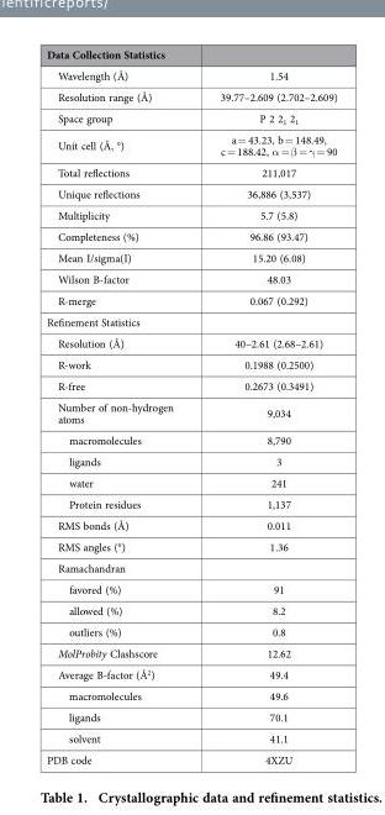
<table><thead><tr><td>Data Collection Statistics</td><td></td></tr></thead><tbody><tr><td>Wavelength (Å)</td><td>1.54</td></tr><tr><td>Resolution range (Å)</td><td>39.77–2.609 (2.702–2.609)</td></tr><tr><td>Space group</td><td>P 2 2<sub>1</sub> 2<sub>1</sub></td></tr><tr><td>Unit cell (Å, °)</td><td>a = 43.23, b = 148.49, c = 188.42, α = β = γ = 90</td></tr><tr><td>Total reflections</td><td>211,017</td></tr><tr><td>Unique reflections</td><td>36,886 (3,537)</td></tr><tr><td>Multiplicity</td><td>5.7 (5.8)</td></tr><tr><td>Completeness (%)</td><td>96.86 (93.47)</td></tr><tr><td>Mean I/sigma(I)</td><td>15.20 (6.08)</td></tr><tr><td>Wilson B-factor</td><td>48.03</td></tr><tr><td>R-merge</td><td>0.067 (0.292)</td></tr><tr><td colspan="2">Refinement Statistics</td></tr><tr><td>Resolution (Å)</td><td>40–2.61 (2.68–2.61)</td></tr><tr><td>R-work</td><td>0.1988 (0.2500)</td></tr><tr><td>R-free</td><td>0.2673 (0.3491)</td></tr><tr><td>Number of non-hydrogen atoms</td><td>9,034</td></tr><tr><td>macromolecules</td><td>8,790</td></tr><tr><td>ligands</td><td>3</td></tr><tr><td>water</td><td>241</td></tr><tr><td>Protein residues</td><td>1,137</td></tr><tr><td>RMS bonds (Å)</td><td>0.011</td></tr><tr><td>RMS angles (°)</td><td>1.36</td></tr><tr><td colspan="2">Ramachandran</td></tr><tr><td>favored (%)</td><td>91</td></tr><tr><td>allowed (%)</td><td>8.2</td></tr><tr><td>outliers (%)</td><td>0.8</td></tr><tr><td>MolProbity Clashscore</td><td>12.62</td></tr><tr><td>Average B-factor (Å<sup>2</sup>)</td><td>49.4</td></tr><tr><td>macromolecules</td><td>49.6</td></tr><tr><td>ligands</td><td>70.1</td></tr><tr><td>solvent</td><td>41.1</td></tr><tr><td>PDB code</td><td>4XZU</td></tr></tbody></table>